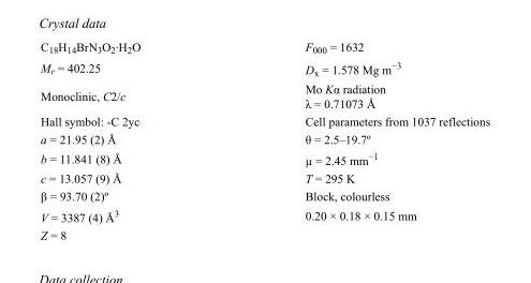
<table><tbody><tr><td>C<sub>18</sub>H<sub>14</sub>BrN<sub>3</sub>O<sub>2</sub>·H<sub>2</sub>O</td><td>F000 = 1632</td></tr><tr><td>M<sub>r</sub> = 402.25</td><td>D<sub>x</sub> = 1.578 Mg m<sup>−3</sup></td></tr><tr><td>Monoclinic, C2/c</td><td>Mo Kα radiation λ = 0.71073 Å</td></tr><tr><td>Hall symbol: -C 2yc</td><td>Cell parameters from 1037 reflections</td></tr><tr><td>a = 21.95 (2) Å</td><td>θ = 2.5–19.7º</td></tr><tr><td>b = 11.841 (8) Å</td><td>µ = 2.45 mm<sup>−1</sup></td></tr><tr><td>c = 13.057 (9) Å</td><td>T = 295 K</td></tr><tr><td>β = 93.70 (2)º</td><td>Block, colourless</td></tr><tr><td>V = 3387 (4) Å<sup>3</sup></td><td>0.20 × 0.18 × 0.15 mm</td></tr><tr><td>Z = 8</td><td></td></tr></tbody></table>